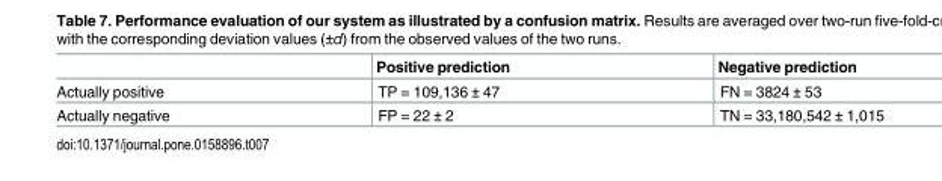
<table><thead><tr><td></td><td>Positive prediction</td><td>Negative prediction</td></tr></thead><tbody><tr><td>Actually positive</td><td>TP = 109,136 ± 47</td><td>FN = 3824 ± 53</td></tr><tr><td>Actually negative</td><td>FP = 22 ± 2</td><td>TN = 33,180,542 ± 1,015</td></tr></tbody></table>